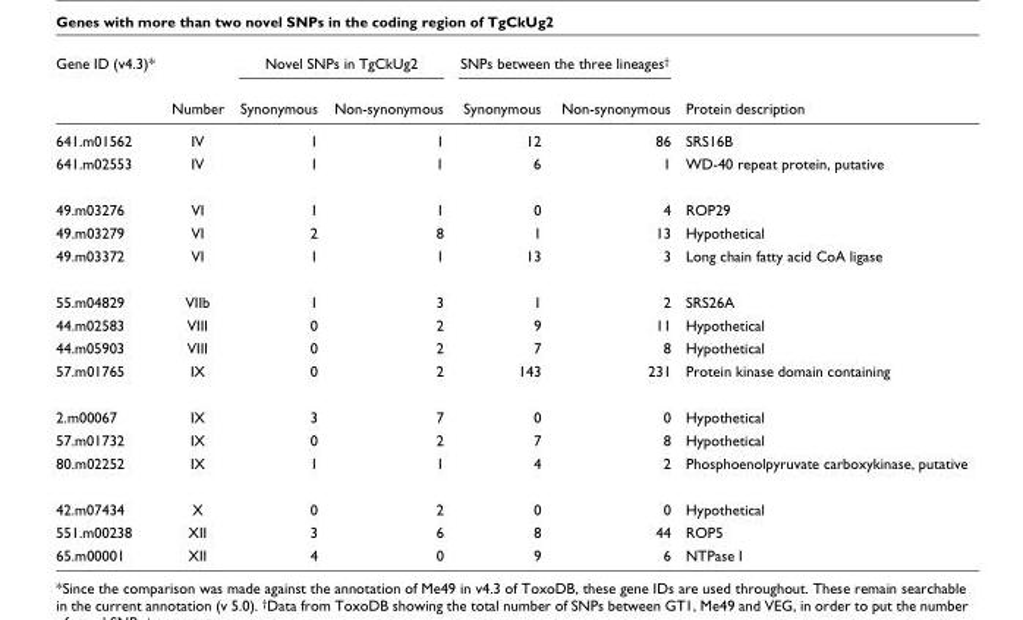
<table><thead><tr><td rowspan="2">Gene ID (v4.3)*</td><td rowspan="2">Number</td><td colspan="2">Novel SNPs in TgCkUg2</td><td colspan="2">SNPs between the three lineages<sup>†</sup></td><td rowspan="2">Protein description</td></tr><tr><td>Synonymous</td><td>Non-synonymous</td><td>Synonymous</td><td>Non-synonymous</td></tr></thead><tbody><tr><td>641.m01562</td><td>IV</td><td>1</td><td>1</td><td>12</td><td>86</td><td>SRS16B</td></tr><tr><td>641.m02553</td><td>IV</td><td>1</td><td>1</td><td>6</td><td>1</td><td>WD-40 repeat protein, putative</td></tr><tr><td>49.m03276</td><td>VI</td><td>1</td><td>1</td><td>0</td><td>4</td><td>ROP29</td></tr><tr><td>49.m03279</td><td>VI</td><td>2</td><td>8</td><td>1</td><td>13</td><td>Hypothetical</td></tr><tr><td>49.m03372</td><td>VI</td><td>1</td><td>1</td><td>13</td><td>3</td><td>Long chain fatty acid CoA ligase</td></tr><tr><td>55.m04829</td><td>VIIb</td><td>1</td><td>3</td><td>1</td><td>2</td><td>SRS26A</td></tr><tr><td>44.m02583</td><td>VIII</td><td>0</td><td>2</td><td>9</td><td>11</td><td>Hypothetical</td></tr><tr><td>44.m05903</td><td>VIII</td><td>0</td><td>2</td><td>7</td><td>8</td><td>Hypothetical</td></tr><tr><td>57.m01765</td><td>IX</td><td>0</td><td>2</td><td>143</td><td>231</td><td>Protein kinase domain containing</td></tr><tr><td>2.m00067</td><td>IX</td><td>3</td><td>7</td><td>0</td><td>0</td><td>Hypothetical</td></tr><tr><td>57.m01732</td><td>IX</td><td>0</td><td>2</td><td>7</td><td>8</td><td>Hypothetical</td></tr><tr><td>80.m02252</td><td>IX</td><td>1</td><td>1</td><td>4</td><td>2</td><td>Phosphoenolpyruvate carboxykinase, putative</td></tr><tr><td>42.m07434</td><td>X</td><td>0</td><td>2</td><td>0</td><td>0</td><td>Hypothetical</td></tr><tr><td>551.m00238</td><td>XII</td><td>3</td><td>6</td><td>8</td><td>44</td><td>ROP5</td></tr><tr><td>65.m00001</td><td>XII</td><td>4</td><td>0</td><td>9</td><td>6</td><td>NTPase I</td></tr></tbody></table>